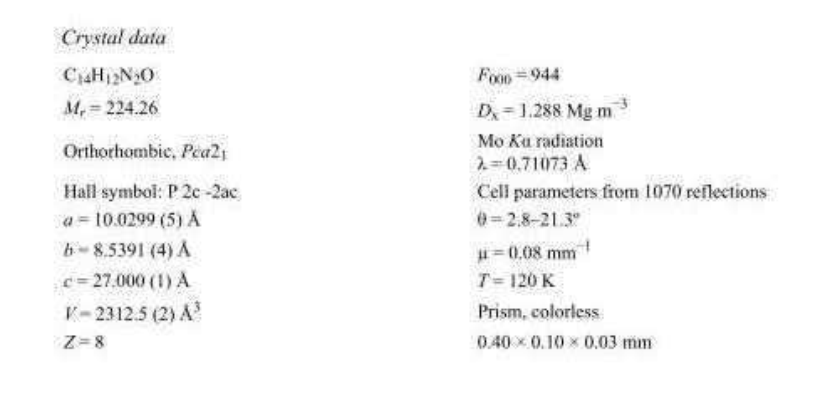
<table><tbody><tr><td>C<sub>14</sub>H<sub>12</sub>N<sub>2</sub>O</td><td>F000 = 944</td></tr><tr><td>M<sub>r</sub> = 224.26</td><td>D<sub>x</sub> = 1.288 Mg m<sup>−3</sup></td></tr><tr><td>Orthorhombic, Pca2<sub>1</sub></td><td>Mo Kα radiation λ = 0.71073 Å</td></tr><tr><td>Hall symbol: P 2c -2ac</td><td>Cell parameters from 1070 reflections</td></tr><tr><td>a = 10.0299 (5) Å</td><td>θ = 2.8–21.3º</td></tr><tr><td>b = 8.5391 (4) Å</td><td>µ = 0.08 mm<sup>−1</sup></td></tr><tr><td>c = 27.000 (1) Å</td><td>T = 120 K</td></tr><tr><td>V = 2312.5 (2) Å<sup>3</sup></td><td>Prism, colorless</td></tr><tr><td>Z = 8</td><td>0.40 × 0.10 × 0.03 mm</td></tr></tbody></table>